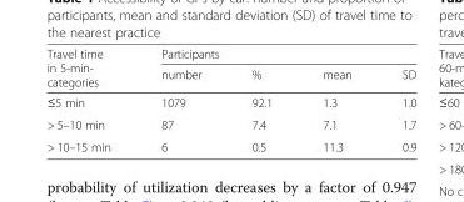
<table><thead><tr><td rowspan="2">Travel time in 5-min- categories</td><td colspan="4">Participants</td></tr><tr><td>number</td><td>%</td><td>mean</td><td>SD</td></tr></thead><tbody><tr><td>≤5 min</td><td>1079</td><td>92.1</td><td>1.3</td><td>1.0</td></tr><tr><td>&gt; 5–10 min</td><td>87</td><td>7.4</td><td>7.1</td><td>1.7</td></tr><tr><td>&gt; 10–15 min</td><td>6</td><td>0.5</td><td>11.3</td><td>0.9</td></tr></tbody></table>